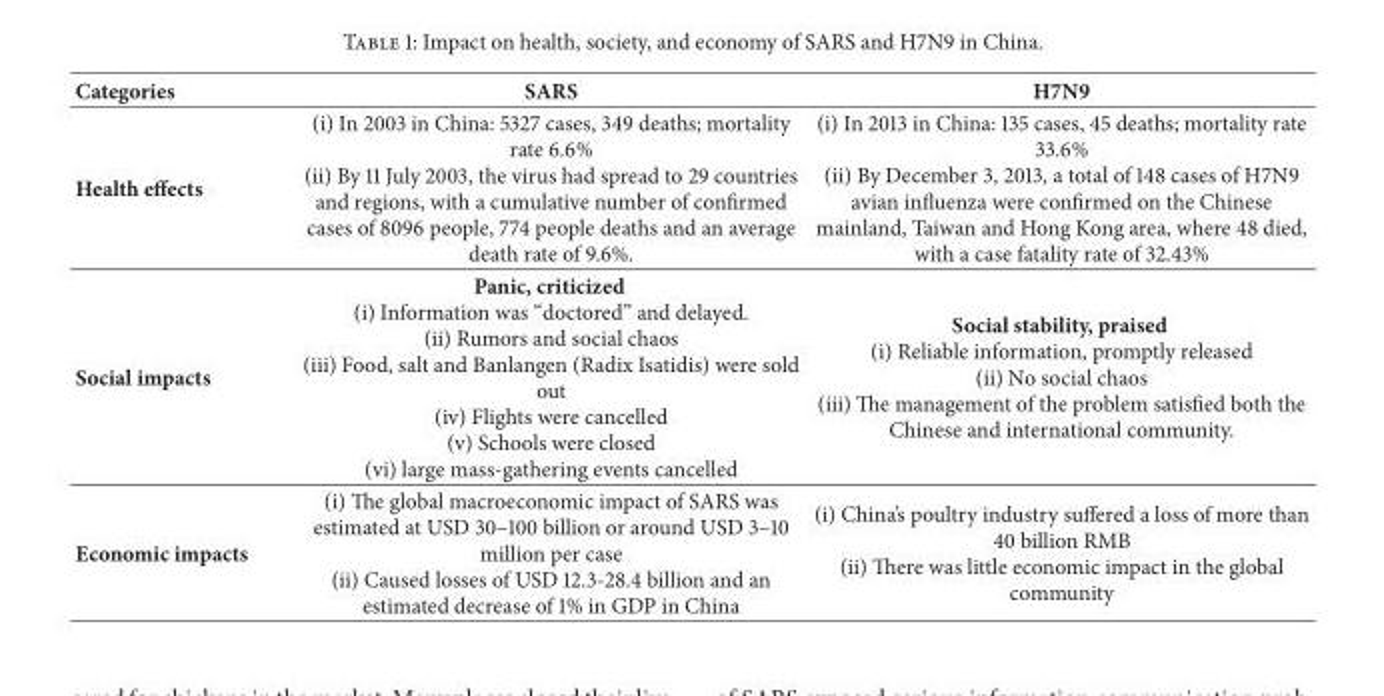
<table><thead><tr><td>Categories</td><td>SARS</td><td>H7N9</td></tr></thead><tbody><tr><td>Health effects</td><td>(i) In 2003 in China: 5327 cases, 349 deaths; mortality rate 6.6% (ii) By 11 July 2003, the virus had spread to 29 countries and regions, with a cumulative number of confirmed cases of 8096 people, 774 people deaths and an average death rate of 9.6%.</td><td>(i) In 2013 in China: 135 cases, 45 deaths; mortality rate 33.6% (ii) By December 3, 2013, a total of 148 cases of H7N9 avian influenza were confirmed on the Chinese mainland, Taiwan and Hong Kong area, where 48 died, with a case fatality rate of 32.43%</td></tr><tr><td>Social impacts</td><td>Panic, criticized (i) Information was “doctored” and delayed. (ii) Rumors and social chaos (iii) Food, salt and Banlangen (Radix Isatidis) were sold out (iv) Flights were cancelled (v) Schools were closed (vi) large mass-gathering events cancelled</td><td>Social stability, praised (i) Reliable information, promptly released (ii) No social chaos (iii) The management of the problem satisfied both the Chinese and international community.</td></tr><tr><td>Economic impacts</td><td>(i) The global macroeconomic impact of SARS was estimated at USD 30–100 billion or around USD 3–10 million per case (ii) Caused losses of USD 12.3-28.4 billion and an estimated decrease of 1% in GDP in China</td><td>(i) China’s poultry industry suffered a loss of more than 40 billion RMB (ii) There was little economic impact in the global community</td></tr></tbody></table>